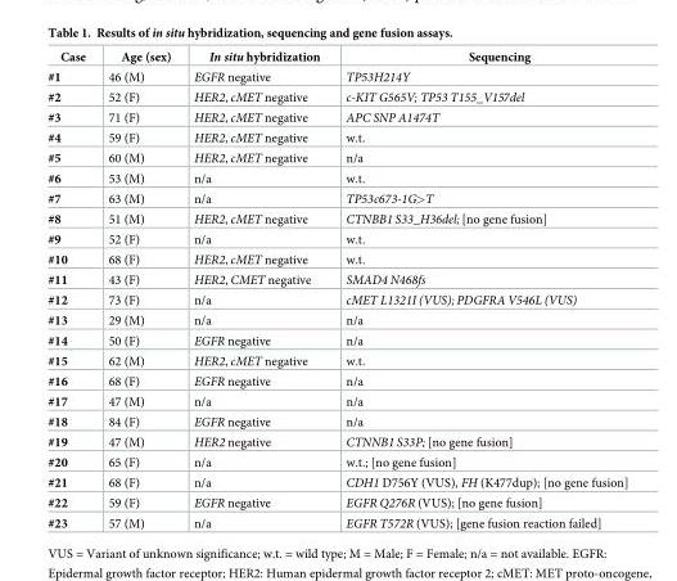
<table><thead><tr><td>Case</td><td>Age (sex)</td><td>In situ hybridization</td><td>Sequencing</td></tr></thead><tbody><tr><td>#1</td><td>46 (M)</td><td>EGFR negative</td><td>TP53H214Y</td></tr><tr><td>#2</td><td>52 (F)</td><td>HER2, cMET negative</td><td>c-KIT G565V; TP53 T155_V157del</td></tr><tr><td>#3</td><td>71 (F)</td><td>HER2, cMET negative</td><td>APC SNP A1474T</td></tr><tr><td>#4</td><td>59 (F)</td><td>HER2, cMET negative</td><td>w.t.</td></tr><tr><td>#5</td><td>60 (M)</td><td>HER2, cMET negative</td><td>n/a</td></tr><tr><td>#6</td><td>53 (M)</td><td>n/a</td><td>w.t.</td></tr><tr><td>#7</td><td>63 (M)</td><td>n/a</td><td>TP53c673-1G&gt;T</td></tr><tr><td>#8</td><td>51 (M)</td><td>HER2, cMET negative</td><td>CTNBB1 S33_H36del; [no gene fusion]</td></tr><tr><td>#9</td><td>52 (F)</td><td>n/a</td><td>w.t.</td></tr><tr><td>#10</td><td>68 (F)</td><td>HER2, cMET negative</td><td>w.t.</td></tr><tr><td>#11</td><td>43 (F)</td><td>HER2, CMET negative</td><td>SMAD4 N468fs</td></tr><tr><td>#12</td><td>73 (F)</td><td>n/a</td><td>cMET L1321I (VUS); PDGFRA V546L (VUS)</td></tr><tr><td>#13</td><td>29 (M)</td><td>n/a</td><td>n/a</td></tr><tr><td>#14</td><td>50 (F)</td><td>EGFR negative</td><td>n/a</td></tr><tr><td>#15</td><td>62 (M)</td><td>HER2, cMET negative</td><td>w.t.</td></tr><tr><td>#16</td><td>68 (F)</td><td>EGFR negative</td><td>n/a</td></tr><tr><td>#17</td><td>47 (M)</td><td>n/a</td><td>n/a</td></tr><tr><td>#18</td><td>84 (F)</td><td>EGFR negative</td><td>n/a</td></tr><tr><td>#19</td><td>47 (M)</td><td>HER2 negative</td><td>CTNNB1 S33P; [no gene fusion]</td></tr><tr><td>#20</td><td>65 (F)</td><td>n/a</td><td>w.t.; [no gene fusion]</td></tr><tr><td>#21</td><td>68 (F)</td><td>n/a</td><td>CDH1 D756Y (VUS), FH (K477dup); [no gene fusion]</td></tr><tr><td>#22</td><td>59 (F)</td><td>EGFR negative</td><td>EGFR Q276R (VUS); [no gene fusion]</td></tr><tr><td>#23</td><td>57 (M)</td><td>n/a</td><td>EGFR T572R (VUS); [gene fusion reaction failed]</td></tr></tbody></table>